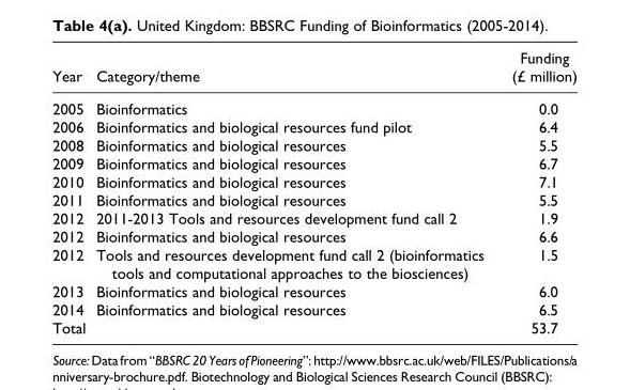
<table><thead><tr><td>Year</td><td>Category/theme</td><td>Funding (£ million)</td></tr></thead><tbody><tr><td>2005</td><td>Bioinformatics</td><td>0.0</td></tr><tr><td>2006</td><td>Bioinformatics and biological resources fund pilot</td><td>6.4</td></tr><tr><td>2008</td><td>Bioinformatics and biological resources</td><td>5.5</td></tr><tr><td>2009</td><td>Bioinformatics and biological resources</td><td>6.7</td></tr><tr><td>2010</td><td>Bioinformatics and biological resources</td><td>7.1</td></tr><tr><td>2011</td><td>Bioinformatics and biological resources</td><td>5.5</td></tr><tr><td>2012</td><td>2011-2013 Tools and resources development fund call 2</td><td>1.9</td></tr><tr><td>2012</td><td>Bioinformatics and biological resources</td><td>6.6</td></tr><tr><td>2012</td><td>Tools and resources development fund call 2 (bioinformatics tools and computational approaches to the biosciences)</td><td>1.5</td></tr><tr><td>2013</td><td>Bioinformatics and biological resources</td><td>6.0</td></tr><tr><td>2014</td><td>Bioinformatics and biological resources</td><td>6.5</td></tr><tr><td>Total</td><td></td><td>53.7</td></tr></tbody></table>